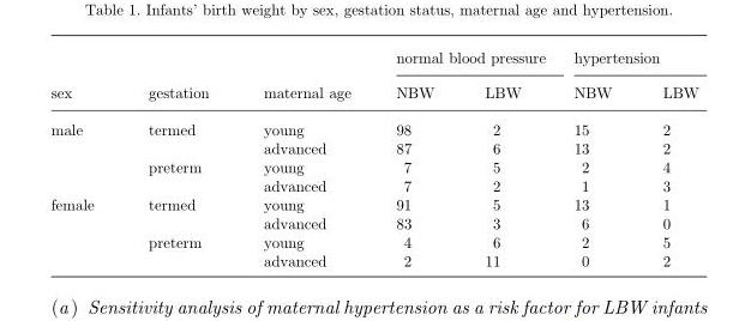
<table><thead><tr><td rowspan="2">sex</td><td rowspan="2">gestation</td><td rowspan="2">maternal age</td><td colspan="2">normal blood pressure</td><td colspan="2">hypertension</td></tr><tr><td>NBW</td><td>LBW</td><td>NBW</td><td>LBW</td></tr></thead><tbody><tr><td rowspan="4">male</td><td rowspan="2">termed</td><td>young</td><td>98</td><td>2</td><td>15</td><td>2</td></tr><tr><td>advanced</td><td>87</td><td>6</td><td>13</td><td>2</td></tr><tr><td rowspan="2">preterm</td><td>young</td><td>7</td><td>5</td><td>2</td><td>4</td></tr><tr><td>advanced</td><td>7</td><td>2</td><td>1</td><td>3</td></tr><tr><td rowspan="4">female</td><td rowspan="2">termed</td><td>young</td><td>91</td><td>5</td><td>13</td><td>1</td></tr><tr><td>advanced</td><td>83</td><td>3</td><td>6</td><td>0</td></tr><tr><td rowspan="2">preterm</td><td>young</td><td>4</td><td>6</td><td>2</td><td>5</td></tr><tr><td>advanced</td><td>2</td><td>11</td><td>0</td><td>2</td></tr></tbody></table>